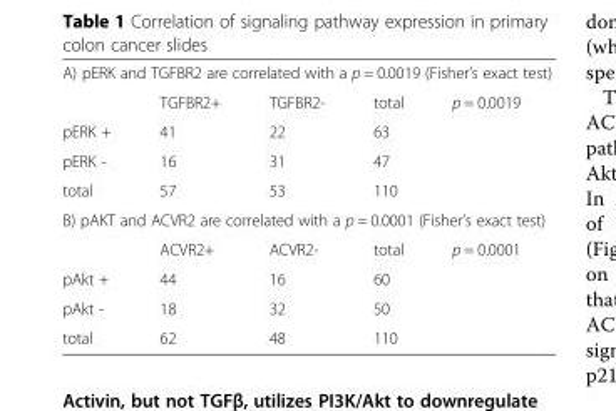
<table><tbody><tr><td colspan="5">A) pERK and TGFBR2 are correlated with a p = 0.0019 (Fisher’s exact test)</td></tr><tr><td></td><td>TGFBR2+</td><td>TGFBR2-</td><td>total</td><td rowspan="4">p = 0.0019</td></tr><tr><td>pERK +</td><td>41</td><td>22</td><td>63</td></tr><tr><td>pERK -</td><td>16</td><td>31</td><td>47</td></tr><tr><td>total</td><td>57</td><td>53</td><td>110</td></tr><tr><td colspan="5">B) pAKT and ACVR2 are correlated with a p = 0.0001 (Fisher’s exact test)</td></tr><tr><td></td><td>ACVR2+</td><td>ACVR2-</td><td>total</td><td rowspan="4">p = 0.0001</td></tr><tr><td>pAkt +</td><td>44</td><td>16</td><td>60</td></tr><tr><td>pAkt -</td><td>18</td><td>32</td><td>50</td></tr><tr><td>total</td><td>62</td><td>48</td><td>110</td></tr></tbody></table>